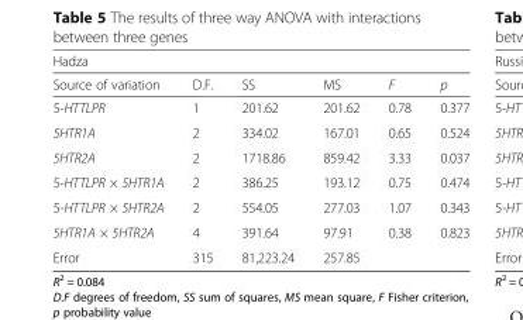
<table><thead><tr><td colspan="6">Hadza</td></tr><tr><td>Source of variation</td><td>D.F.</td><td>SS</td><td>MS</td><td>F</td><td>p</td></tr></thead><tbody><tr><td>5-HTTLPR</td><td>1</td><td>201.62</td><td>201.62</td><td>0.78</td><td>0.377</td></tr><tr><td>5HTR1A</td><td>2</td><td>334.02</td><td>167.01</td><td>0.65</td><td>0.524</td></tr><tr><td>5HTR2A</td><td>2</td><td>1718.86</td><td>859.42</td><td>3.33</td><td>0.037</td></tr><tr><td>5-HTTLPR × 5HTR1A</td><td>2</td><td>386.25</td><td>193.12</td><td>0.75</td><td>0.474</td></tr><tr><td>5-HTTLPR × 5HTR2A</td><td>2</td><td>554.05</td><td>277.03</td><td>1.07</td><td>0.343</td></tr><tr><td>5HTR1A × 5HTR2A</td><td>4</td><td>391.64</td><td>97.91</td><td>0.38</td><td>0.823</td></tr><tr><td>Error</td><td>315</td><td>81,223.24</td><td>257.85</td><td></td><td></td></tr></tbody></table>